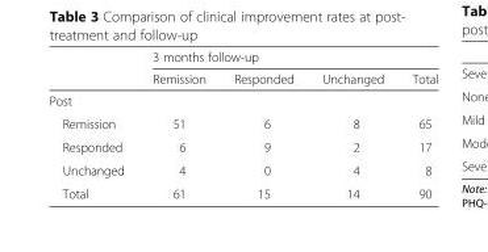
<table><thead><tr><td rowspan="2"></td><td colspan="4">3 months follow-up</td></tr><tr><td>Remission</td><td>Responded</td><td>Unchanged</td><td>Total</td></tr></thead><tbody><tr><td colspan="5">Post</td></tr><tr><td>Remission</td><td>51</td><td>6</td><td>8</td><td>65</td></tr><tr><td>Responded</td><td>6</td><td>9</td><td>2</td><td>17</td></tr><tr><td>Unchanged</td><td>4</td><td>0</td><td>4</td><td>8</td></tr><tr><td>Total</td><td>61</td><td>15</td><td>14</td><td>90</td></tr></tbody></table>